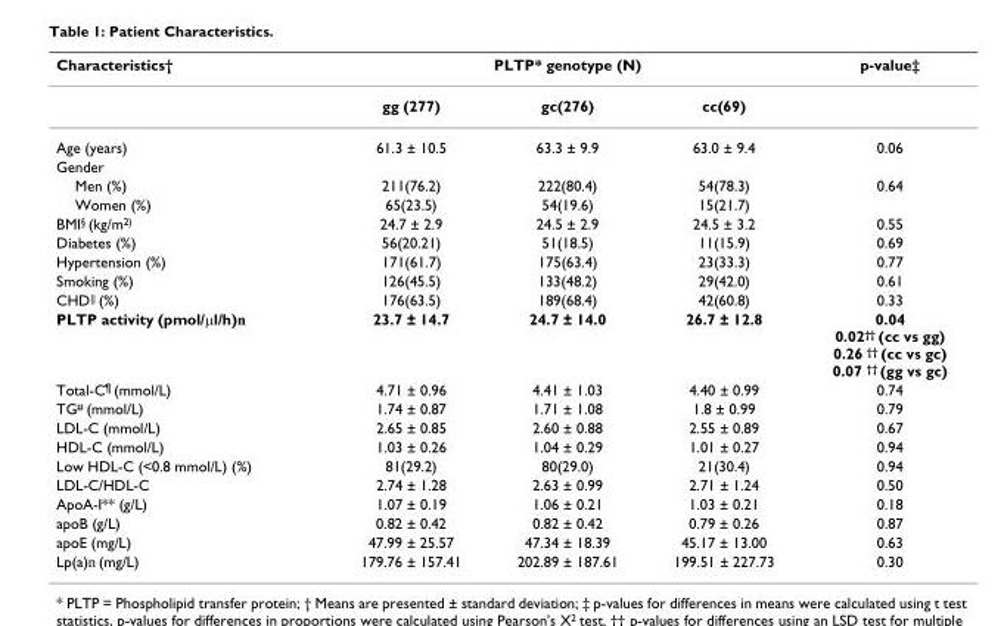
<table><thead><tr><td rowspan="2">Characteristics†</td><td colspan="3">PLTP* genotype (N)</td><td rowspan="2">p-value‡</td></tr><tr><td>gg (277)</td><td>gc(276)</td><td>cc(69)</td></tr></thead><tbody><tr><td>Age (years)</td><td>61.3 ± 10.5</td><td>63.3 ± 9.9</td><td>63.0 ± 9.4</td><td>0.06</td></tr><tr><td colspan="5">Gender</td></tr><tr><td>Men (%)</td><td>211(76.2)</td><td>222(80.4)</td><td>54(78.3)</td><td>0.64</td></tr><tr><td>Women (%)</td><td>65(23.5)</td><td>54(19.6)</td><td>15(21.7)</td><td></td></tr><tr><td>BMI<sup>§</sup> (kg/m<sup>2)</sup></td><td>24.7 ± 2.9</td><td>24.5 ± 2.9</td><td>24.5 ± 3.2</td><td>0.55</td></tr><tr><td>Diabetes (%)</td><td>56(20.21)</td><td>51(18.5)</td><td>11(15.9)</td><td>0.69</td></tr><tr><td>Hypertension (%)</td><td>171(61.7)</td><td>175(63.4)</td><td>23(33.3)</td><td>0.77</td></tr><tr><td>Smoking (%)</td><td>126(45.5)</td><td>133(48.2)</td><td>29(42.0)</td><td>0.61</td></tr><tr><td>CHD<sup>||</sup> (%)</td><td>176(63.5)</td><td>189(68.4)</td><td>42(60.8)</td><td>0.33</td></tr><tr><td>PLTP activity (pmol/μl/h)€</td><td>23.7 ± 14.7</td><td>24.7 ± 14.0</td><td>26.7 ± 12.8</td><td>0.04 0.02†† (cc vs gg) 0.26 †† (cc vs gc) 0.07 †† (gg vs gc)</td></tr><tr><td>Total-C<sup>¶</sup> (mmol/L)</td><td>4.71 ± 0.96</td><td>4.41 ± 1.03</td><td>4.40 ± 0.99</td><td>0.74</td></tr><tr><td>TG<sup>#</sup> (mmol/L)</td><td>1.74 ± 0.87</td><td>1.71 ± 1.08</td><td>1.8 ± 0.99</td><td>0.79</td></tr><tr><td>LDL-C (mmol/L)</td><td>2.65 ± 0.85</td><td>2.60 ± 0.88</td><td>2.55 ± 0.89</td><td>0.67</td></tr><tr><td>HDL-C (mmol/L)</td><td>1.03 ± 0.26</td><td>1.04 ± 0.29</td><td>1.01 ± 0.27</td><td>0.94</td></tr><tr><td>Low HDL-C (&lt;0.8 mmol/L) (%)</td><td>81(29.2)</td><td>80(29.0)</td><td>21(30.4)</td><td>0.94</td></tr><tr><td>LDL-C/HDL-C</td><td>2.74 ± 1.28</td><td>2.63 ± 0.99</td><td>2.71 ± 1.24</td><td>0.50</td></tr><tr><td>ApoA-I** (g/L)</td><td>1.07 ± 0.19</td><td>1.06 ± 0.21</td><td>1.03 ± 0.21</td><td>0.18</td></tr><tr><td>apoB (g/L)</td><td>0.82 ± 0.42</td><td>0.82 ± 0.42</td><td>0.79 ± 0.26</td><td>0.87</td></tr><tr><td>apoE (mg/L)</td><td>47.99 ± 25.57</td><td>47.34 ± 18.39</td><td>45.17 ± 13.00</td><td>0.63</td></tr><tr><td>Lp(a)<sup>€</sup> (mg/L)</td><td>179.76 ± 157.41</td><td>202.89 ± 187.61</td><td>199.51 ± 227.73</td><td>0.30</td></tr></tbody></table>